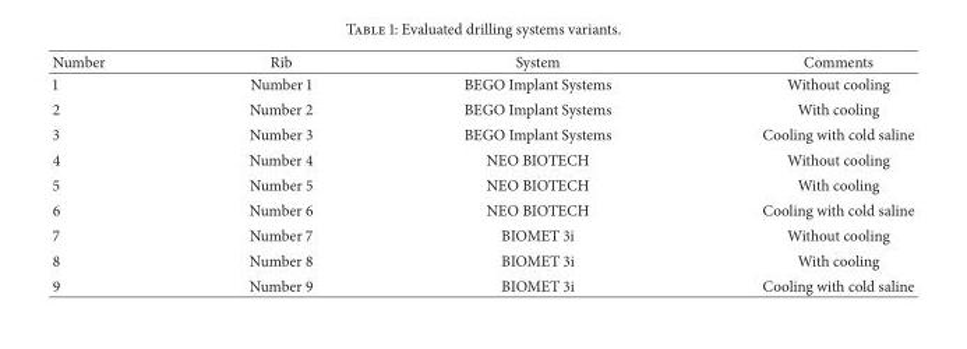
<table><thead><tr><td>Number</td><td>Rib</td><td>System</td><td>Comments</td></tr></thead><tbody><tr><td>1</td><td>Number 1</td><td>BEGO Implant Systems</td><td>Without cooling</td></tr><tr><td>2</td><td>Number 2</td><td>BEGO Implant Systems</td><td>With cooling</td></tr><tr><td>3</td><td>Number 3</td><td>BEGO Implant Systems</td><td>Cooling with cold saline</td></tr><tr><td>4</td><td>Number 4</td><td>NEO BIOTECH</td><td>Without cooling</td></tr><tr><td>5</td><td>Number 5</td><td>NEO BIOTECH</td><td>With cooling</td></tr><tr><td>6</td><td>Number 6</td><td>NEO BIOTECH</td><td>Cooling with cold saline</td></tr><tr><td>7</td><td>Number 7</td><td>BIOMET 3i</td><td>Without cooling</td></tr><tr><td>8</td><td>Number 8</td><td>BIOMET 3i</td><td>With cooling</td></tr><tr><td>9</td><td>Number 9</td><td>BIOMET 3i</td><td>Cooling with cold saline</td></tr></tbody></table>